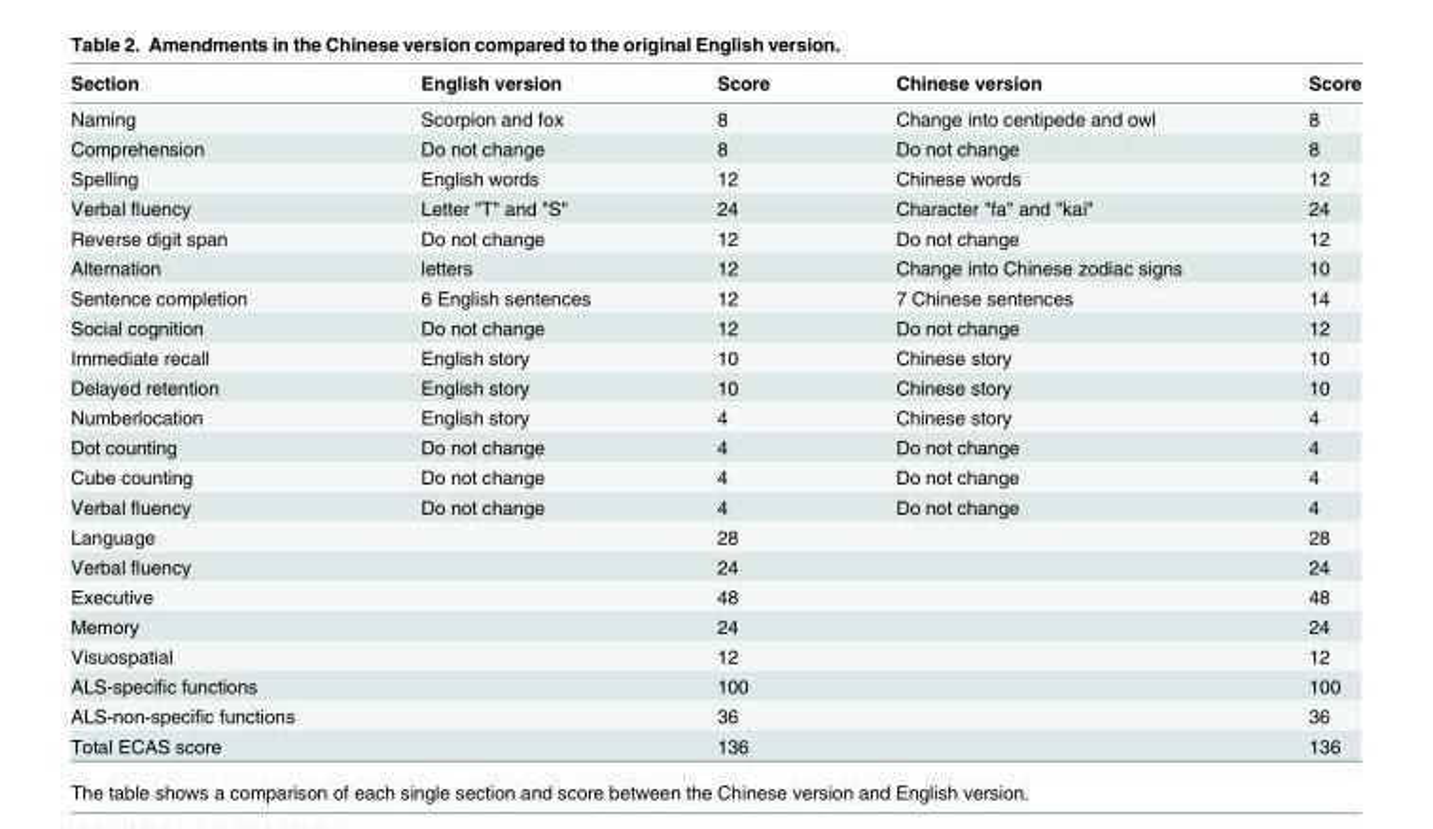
<table><thead><tr><td>Section</td><td>English version</td><td>Score</td><td>Chinese version</td><td>Score</td></tr></thead><tbody><tr><td>Naming</td><td>Scorpion and fox</td><td>8</td><td>Change into centipede and owl</td><td>8</td></tr><tr><td>Comprehension</td><td>Do not change</td><td>8</td><td>Do not change</td><td>8</td></tr><tr><td>Spelling</td><td>English words</td><td>12</td><td>Chinese words</td><td>12</td></tr><tr><td>Verbal fluency</td><td>Letter &quot;T&quot; and &quot;S&quot;</td><td>24</td><td>Character &quot;fa&quot; and &quot;kai&quot;</td><td>24</td></tr><tr><td>Reverse digit span</td><td>Do not change</td><td>12</td><td>Do not change</td><td>12</td></tr><tr><td>Alternation</td><td>letters</td><td>12</td><td>Change into Chinese zodiac signs</td><td>10</td></tr><tr><td>Sentence completion</td><td>6 English sentences</td><td>12</td><td>7 Chinese sentences</td><td>14</td></tr><tr><td>Social cognition</td><td>Do not change</td><td>12</td><td>Do not change</td><td>12</td></tr><tr><td>Immediate recall</td><td>English story</td><td>10</td><td>Chinese story</td><td>10</td></tr><tr><td>Delayed retention</td><td>English story</td><td>10</td><td>Chinese story</td><td>10</td></tr><tr><td>Numberlocation</td><td>English story</td><td>4</td><td>Chinese story</td><td>4</td></tr><tr><td>Dot counting</td><td>Do not change</td><td>4</td><td>Do not change</td><td>4</td></tr><tr><td>Cube counting</td><td>Do not change</td><td>4</td><td>Do not change</td><td>4</td></tr><tr><td>Verbal fluency</td><td>Do not change</td><td>4</td><td>Do not change</td><td>4</td></tr><tr><td>Language</td><td></td><td>28</td><td></td><td>28</td></tr><tr><td>Verbal fluency</td><td></td><td>24</td><td></td><td>24</td></tr><tr><td>Executive</td><td></td><td>48</td><td></td><td>48</td></tr><tr><td>Memory</td><td></td><td>24</td><td></td><td>24</td></tr><tr><td>Visuospatial</td><td></td><td>12</td><td></td><td>12</td></tr><tr><td>ALS-specific functions</td><td></td><td>100</td><td></td><td>100</td></tr><tr><td>ALS-non-specific functions</td><td></td><td>36</td><td></td><td>36</td></tr><tr><td>Total ECAS score</td><td></td><td>136</td><td></td><td>136</td></tr></tbody></table>